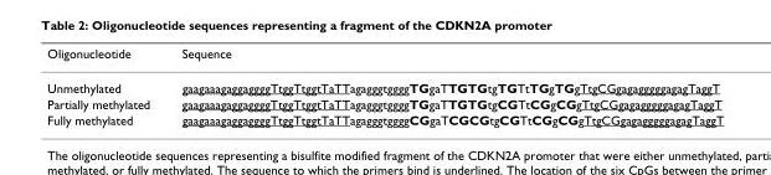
<table><thead><tr><td>Oligonucleotide</td><td>Sequence</td></tr></thead><tbody><tr><td>Unmethylated</td><td>gaagaaagaggaggggTtggTtggtTaTTagagggtggggTGgaTTGTGtgTGTtTGgTGgTtgCGgagagggggagagTaggT</td></tr><tr><td>Partially methylated</td><td>gaagaaagaggaggggTtggTtggtTaTTagagggtggggTGgaTTGTGtgCGTtCGgCGgTtgCGgagagggggagagTaggT</td></tr><tr><td>Fully methylated</td><td>gaagaaagaggaggggTtggTtggtTaTTagagggtggggCGgaTCGCGtgCGTtCGgCGgTtgCGgagagggggagagTaggT</td></tr></tbody></table>